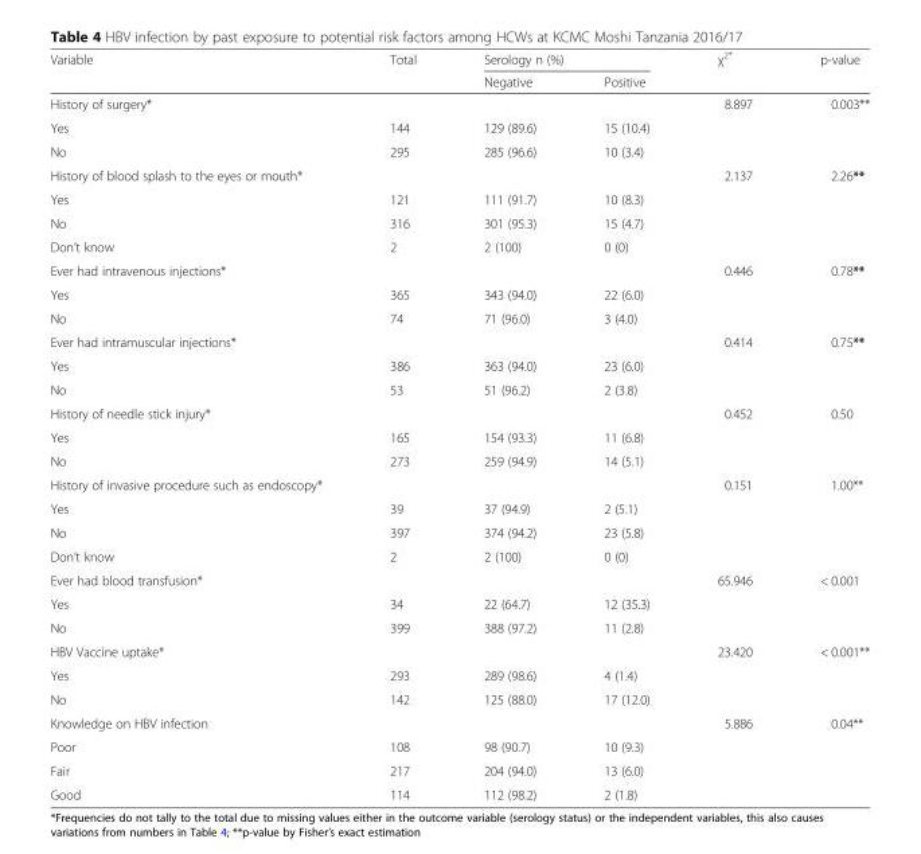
<table><thead><tr><td rowspan="2">Variable</td><td rowspan="2">Total</td><td colspan="2">Serology n (%)</td><td rowspan="2">χ<sup>2*</sup></td><td rowspan="2">p-value</td></tr><tr><td>Negative</td><td>Positive</td></tr></thead><tbody><tr><td>History of surgery*</td><td></td><td></td><td></td><td>8.897</td><td>0.003**</td></tr><tr><td>Yes</td><td>144</td><td>129 (89.6)</td><td>15 (10.4)</td><td></td><td></td></tr><tr><td>No</td><td>295</td><td>285 (96.6)</td><td>10 (3.4)</td><td></td><td></td></tr><tr><td>History of blood splash to the eyes or mouth*</td><td></td><td></td><td></td><td>2.137</td><td>2.26**</td></tr><tr><td>Yes</td><td>121</td><td>111 (91.7)</td><td>10 (8.3)</td><td></td><td></td></tr><tr><td>No</td><td>316</td><td>301 (95.3)</td><td>15 (4.7)</td><td></td><td></td></tr><tr><td>Don’t know</td><td>2</td><td>2 (100)</td><td>0 (0)</td><td></td><td></td></tr><tr><td>Ever had intravenous injections*</td><td></td><td></td><td></td><td>0.446</td><td>0.78**</td></tr><tr><td>Yes</td><td>365</td><td>343 (94.0)</td><td>22 (6.0)</td><td></td><td></td></tr><tr><td>No</td><td>74</td><td>71 (96.0)</td><td>3 (4.0)</td><td></td><td></td></tr><tr><td>Ever had intramuscular injections*</td><td></td><td></td><td></td><td>0.414</td><td>0.75**</td></tr><tr><td>Yes</td><td>386</td><td>363 (94.0)</td><td>23 (6.0)</td><td></td><td></td></tr><tr><td>No</td><td>53</td><td>51 (96.2)</td><td>2 (3.8)</td><td></td><td></td></tr><tr><td>History of needle stick injury*</td><td></td><td></td><td></td><td>0.452</td><td>0.50</td></tr><tr><td>Yes</td><td>165</td><td>154 (93.3)</td><td>11 (6.8)</td><td></td><td></td></tr><tr><td>No</td><td>273</td><td>259 (94.9)</td><td>14 (5.1)</td><td></td><td></td></tr><tr><td>History of invasive procedure such as endoscopy*</td><td></td><td></td><td></td><td>0.151</td><td>1.00**</td></tr><tr><td>Yes</td><td>39</td><td>37 (94.9)</td><td>2 (5.1)</td><td></td><td></td></tr><tr><td>No</td><td>397</td><td>374 (94.2)</td><td>23 (5.8)</td><td></td><td></td></tr><tr><td>Don’t know</td><td>2</td><td>2 (100)</td><td>0 (0)</td><td></td><td></td></tr><tr><td>Ever had blood transfusion*</td><td></td><td></td><td></td><td>65.946</td><td>&lt; 0.001</td></tr><tr><td>Yes</td><td>34</td><td>22 (64.7)</td><td>12 (35.3)</td><td></td><td></td></tr><tr><td>No</td><td>399</td><td>388 (97.2)</td><td>11 (2.8)</td><td></td><td></td></tr><tr><td>HBV Vaccine uptake*</td><td></td><td></td><td></td><td>23.420</td><td>&lt; 0.001**</td></tr><tr><td>Yes</td><td>293</td><td>289 (98.6)</td><td>4 (1.4)</td><td></td><td></td></tr><tr><td>No</td><td>142</td><td>125 (88.0)</td><td>17 (12.0)</td><td></td><td></td></tr><tr><td>Knowledge on HBV infection</td><td></td><td></td><td></td><td>5.886</td><td>0.04**</td></tr><tr><td>Poor</td><td>108</td><td>98 (90.7)</td><td>10 (9.3)</td><td></td><td></td></tr><tr><td>Fair</td><td>217</td><td>204 (94.0)</td><td>13 (6.0)</td><td></td><td></td></tr><tr><td>Good</td><td>114</td><td>112 (98.2)</td><td>2 (1.8)</td><td></td><td></td></tr></tbody></table>